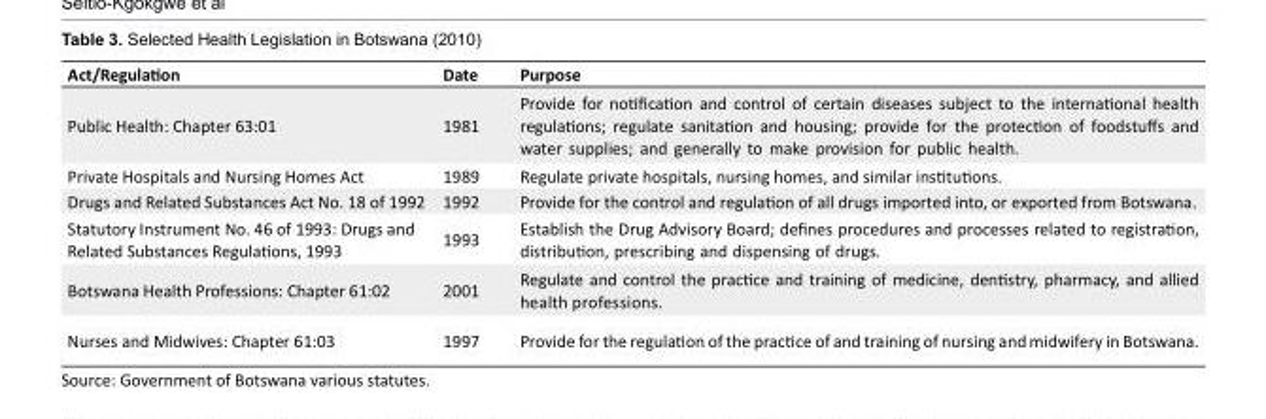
<table><tbody><tr><td>Act/Regulation</td><td>Date</td><td>Purpose</td></tr><tr><td>Public Health: Chapter 63:01</td><td>1981</td><td>Provide for notification and control of certain diseases subject to the international health regulations; regulate sanitation and housing; provide for the protection of foodstuffs and water supplies; and generally to make provision for public health.</td></tr><tr><td>Private Hospitals and Nursing Homes Act</td><td>1989</td><td>Regulate private hospitals, nursing homes, and similar institutions.</td></tr><tr><td>Drugs and Related Substances Act No. 18 of 1992</td><td>1992</td><td>Provide for the control and regulation of all drugs imported into, or exported from Botswana.</td></tr><tr><td>Statutory Instrument No. 46 of 1993: Drugs and Related Substances Regulations, 1993</td><td>1993</td><td>Establish the Drug Advisory Board; defines procedures and processes related to registration, distribution, prescribing and dispensing of drugs.</td></tr><tr><td>Botswana Health Professions: Chapter 61:02</td><td>2001</td><td>Regulate and control the practice and training of medicine, dentistry, pharmacy, and allied health professions.</td></tr><tr><td>Nurses and Midwives: Chapter 61:03</td><td>1997</td><td>Provide for the regulation of the practice of and training of nursing and midwifery in Botswana.</td></tr></tbody></table>